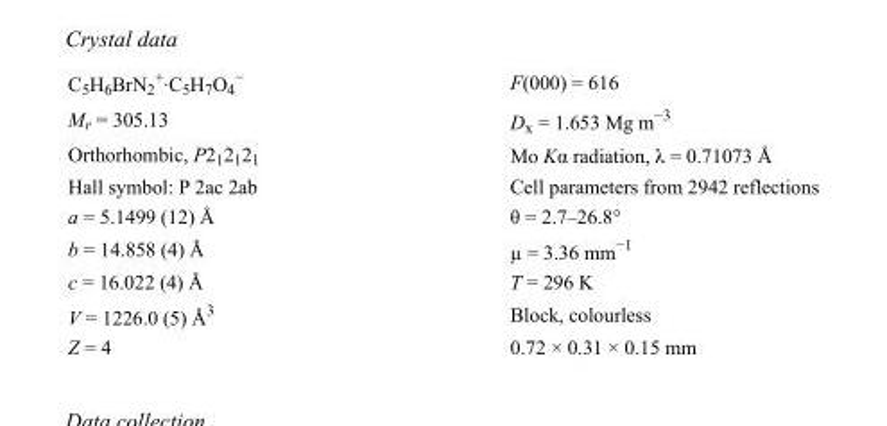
<table><tbody><tr><td>C<sub>5</sub>H<sub>6</sub>BrN<sub>2</sub> <sup>+</sup>·C<sub>5</sub>H<sub>7</sub>O<sub>4</sub> <sup>−</sup></td><td>F(000) = 616</td></tr><tr><td>M<sub>r</sub> = 305.13</td><td>D<sub>x</sub> = 1.653 Mg m<sup>−3</sup></td></tr><tr><td>Orthorhombic, P2<sub>1</sub>2<sub>1</sub>2<sub>1</sub></td><td>Mo Kα radiation, λ = 0.71073 Å</td></tr><tr><td>Hall symbol: P 2ac 2ab</td><td>Cell parameters from 2942 reflections</td></tr><tr><td>a = 5.1499 (12) Å</td><td>θ = 2.7–26.8°</td></tr><tr><td>b = 14.858 (4) Å</td><td>µ = 3.36 mm<sup>−1</sup></td></tr><tr><td>c = 16.022 (4) Å</td><td>T = 296 K</td></tr><tr><td>V = 1226.0 (5) Å<sup>3</sup></td><td>Block, colourless</td></tr><tr><td>Z = 4</td><td>0.72 × 0.31 × 0.15 mm</td></tr></tbody></table>